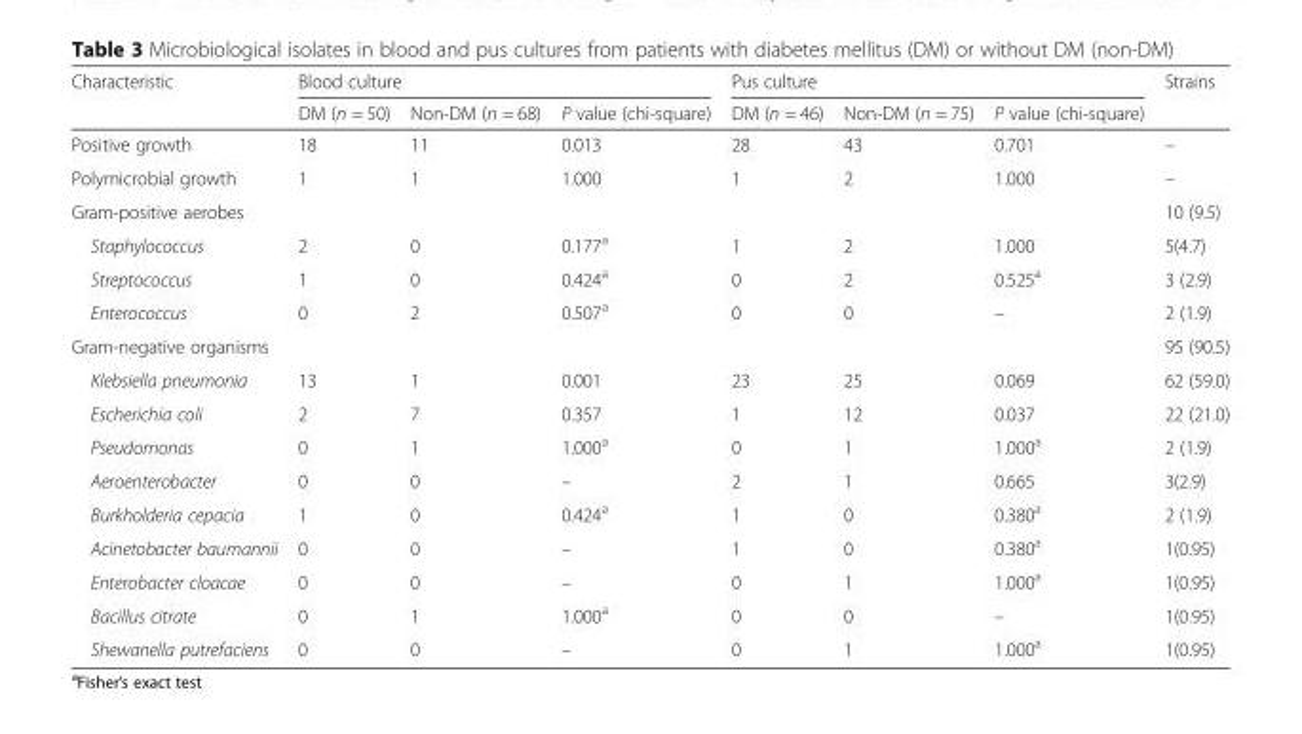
<table><thead><tr><td rowspan="2">Characteristic</td><td colspan="3">Blood culture</td><td colspan="3">Pus culture</td><td rowspan="2">Strains</td></tr><tr><td>DM (n = 50)</td><td>Non-DM (n = 68)</td><td>P value (chi-square)</td><td>DM (n = 46)</td><td>Non-DM (n = 75)</td><td>P value (chi-square)</td></tr></thead><tbody><tr><td>Positive growth</td><td>18</td><td>11</td><td>0.013</td><td>28</td><td>43</td><td>0.701</td><td>–</td></tr><tr><td>Polymicrobial growth</td><td>1</td><td>1</td><td>1.000</td><td>1</td><td>2</td><td>1.000</td><td>–</td></tr><tr><td colspan="7">Gram-positive aerobes</td><td>10 (9.5)</td></tr><tr><td>Staphylococcus</td><td>2</td><td>0</td><td>0.177<sup>a</sup></td><td>1</td><td>2</td><td>1.000</td><td>5(4.7)</td></tr><tr><td>Streptococcus</td><td>1</td><td>0</td><td>0.424<sup>a</sup></td><td>0</td><td>2</td><td>0.525<sup>a</sup></td><td>3 (2.9)</td></tr><tr><td>Enterococcus</td><td>0</td><td>2</td><td>0.507<sup>a</sup></td><td>0</td><td>0</td><td>–</td><td>2 (1.9)</td></tr><tr><td colspan="7">Gram-negative organisms</td><td>95 (90.5)</td></tr><tr><td>Klebsiella pneumonia</td><td>13</td><td>1</td><td>0.001</td><td>23</td><td>25</td><td>0.069</td><td>62 (59.0)</td></tr><tr><td>Escherichia coli</td><td>2</td><td>7</td><td>0.357</td><td>1</td><td>12</td><td>0.037</td><td>22 (21.0)</td></tr><tr><td>Pseudomonas</td><td>0</td><td>1</td><td>1.000<sup>a</sup></td><td>0</td><td>1</td><td>1.000<sup>a</sup></td><td>2 (1.9)</td></tr><tr><td>Aeroenterobacter</td><td>0</td><td>0</td><td>–</td><td>2</td><td>1</td><td>0.665</td><td>3(2.9)</td></tr><tr><td>Burkholderia cepacia</td><td>1</td><td>0</td><td>0.424<sup>a</sup></td><td>1</td><td>0</td><td>0.380<sup>a</sup></td><td>2 (1.9)</td></tr><tr><td>Acinetobacter baumannii</td><td>0</td><td>0</td><td>–</td><td>1</td><td>0</td><td>0.380<sup>a</sup></td><td>1(0.95)</td></tr><tr><td>Enterobacter cloacae</td><td>0</td><td>0</td><td>–</td><td>0</td><td>1</td><td>1.000<sup>a</sup></td><td>1(0.95)</td></tr><tr><td>Bacillus citrate</td><td>0</td><td>1</td><td>1.000<sup>a</sup></td><td>0</td><td>0</td><td>–</td><td>1(0.95)</td></tr><tr><td>Shewanella putrefaciens</td><td>0</td><td>0</td><td>–</td><td>0</td><td>1</td><td>1.000<sup>a</sup></td><td>1(0.95)</td></tr></tbody></table>